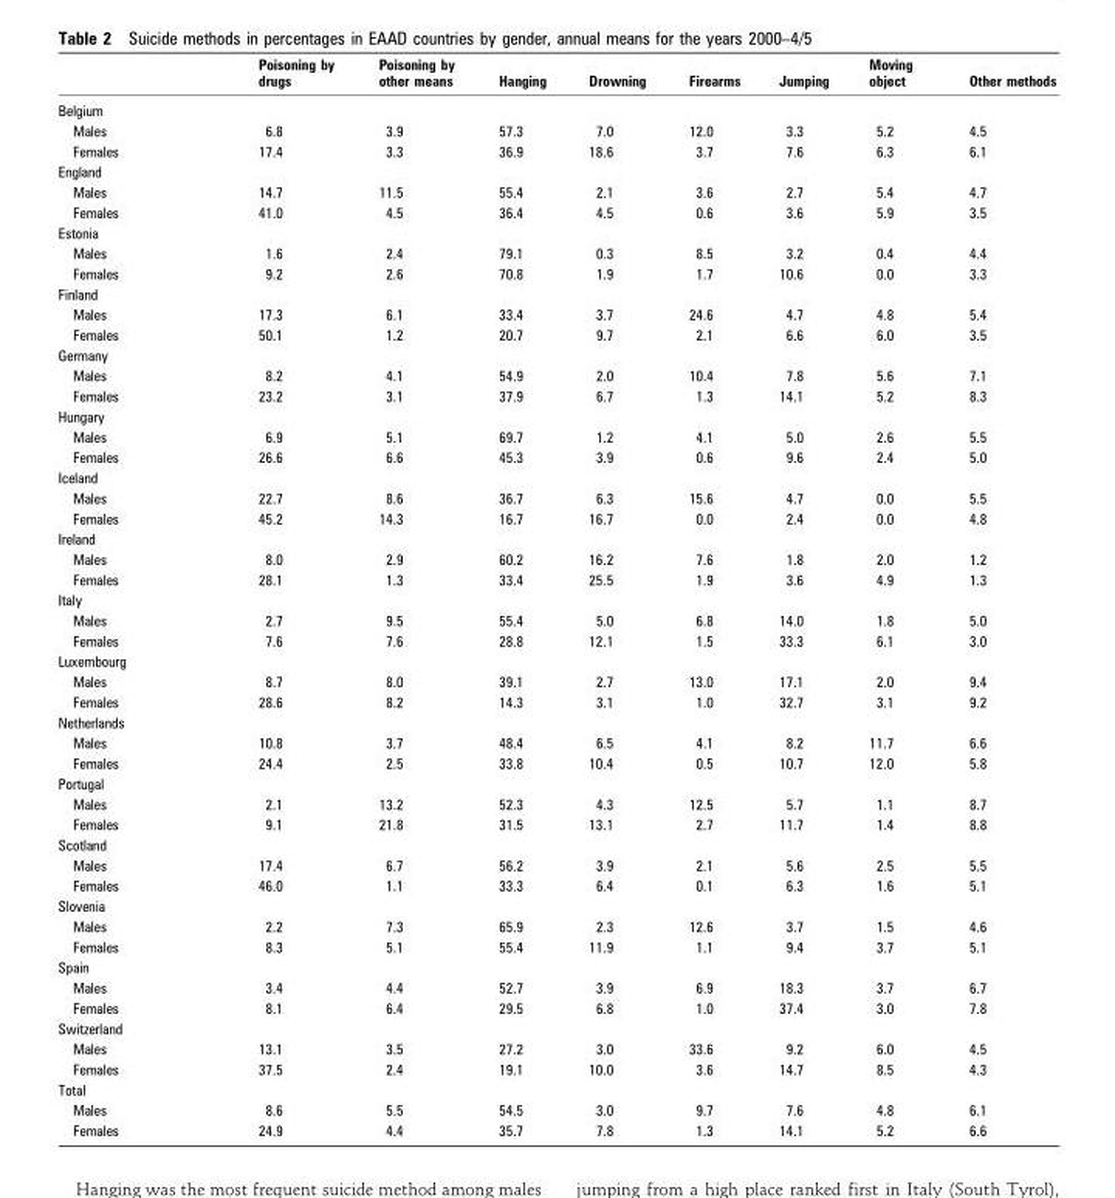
<table><thead><tr><td></td><td>Poisoning by drugs</td><td>Poisoning by other means</td><td>Hanging</td><td>Drowning</td><td>Firearms</td><td>Jumping</td><td>Moving object</td><td>Other methods</td></tr></thead><tbody><tr><td colspan="9">Belgium</td></tr><tr><td>Males</td><td>6.8</td><td>3.9</td><td>57.3</td><td>7.0</td><td>12.0</td><td>3.3</td><td>5.2</td><td>4.5</td></tr><tr><td>Females</td><td>17.4</td><td>3.3</td><td>36.9</td><td>18.6</td><td>3.7</td><td>7.6</td><td>6.3</td><td>6.1</td></tr><tr><td colspan="9">England</td></tr><tr><td>Males</td><td>14.7</td><td>11.5</td><td>55.4</td><td>2.1</td><td>3.6</td><td>2.7</td><td>5.4</td><td>4.7</td></tr><tr><td>Females</td><td>41.0</td><td>4.5</td><td>36.4</td><td>4.5</td><td>0.6</td><td>3.6</td><td>5.9</td><td>3.5</td></tr><tr><td colspan="9">Estonia</td></tr><tr><td>Males</td><td>1.6</td><td>2.4</td><td>79.1</td><td>0.3</td><td>8.5</td><td>3.2</td><td>0.4</td><td>4.4</td></tr><tr><td>Females</td><td>9.2</td><td>2.6</td><td>70.8</td><td>1.9</td><td>1.7</td><td>10.6</td><td>0.0</td><td>3.3</td></tr><tr><td colspan="9">Finland</td></tr><tr><td>Males</td><td>17.3</td><td>6.1</td><td>33.4</td><td>3.7</td><td>24.6</td><td>4.7</td><td>4.8</td><td>5.4</td></tr><tr><td>Females</td><td>50.1</td><td>1.2</td><td>20.7</td><td>9.7</td><td>2.1</td><td>6.6</td><td>6.0</td><td>3.5</td></tr><tr><td colspan="9">Germany</td></tr><tr><td>Males</td><td>8.2</td><td>4.1</td><td>54.9</td><td>2.0</td><td>10.4</td><td>7.8</td><td>5.6</td><td>7.1</td></tr><tr><td>Females</td><td>23.2</td><td>3.1</td><td>37.9</td><td>6.7</td><td>1.3</td><td>14.1</td><td>5.2</td><td>8.3</td></tr><tr><td colspan="9">Hungary</td></tr><tr><td>Males</td><td>6.9</td><td>5.1</td><td>69.7</td><td>1.2</td><td>4.1</td><td>5.0</td><td>2.6</td><td>5.5</td></tr><tr><td>Females</td><td>26.6</td><td>6.6</td><td>45.3</td><td>3.9</td><td>0.6</td><td>9.6</td><td>2.4</td><td>5.0</td></tr><tr><td colspan="9">Iceland</td></tr><tr><td>Males</td><td>22.7</td><td>8.6</td><td>36.7</td><td>6.3</td><td>15.6</td><td>4.7</td><td>0.0</td><td>5.5</td></tr><tr><td>Females</td><td>45.2</td><td>14.3</td><td>16.7</td><td>16.7</td><td>0.0</td><td>2.4</td><td>0.0</td><td>4.8</td></tr><tr><td colspan="9">Ireland</td></tr><tr><td>Males</td><td>8.0</td><td>2.9</td><td>60.2</td><td>16.2</td><td>7.6</td><td>1.8</td><td>2.0</td><td>1.2</td></tr><tr><td>Females</td><td>28.1</td><td>1.3</td><td>33.4</td><td>25.5</td><td>1.9</td><td>3.6</td><td>4.9</td><td>1.3</td></tr><tr><td colspan="9">Italy</td></tr><tr><td>Males</td><td>2.7</td><td>9.5</td><td>55.4</td><td>5.0</td><td>6.8</td><td>14.0</td><td>1.8</td><td>5.0</td></tr><tr><td>Females</td><td>7.6</td><td>7.6</td><td>28.8</td><td>12.1</td><td>1.5</td><td>33.3</td><td>6.1</td><td>3.0</td></tr><tr><td colspan="9">Luxembourg</td></tr><tr><td>Males</td><td>8.7</td><td>8.0</td><td>39.1</td><td>2.7</td><td>13.0</td><td>17.1</td><td>2.0</td><td>9.4</td></tr><tr><td>Females</td><td>28.6</td><td>8.2</td><td>14.3</td><td>3.1</td><td>1.0</td><td>32.7</td><td>3.1</td><td>9.2</td></tr><tr><td colspan="9">Netherlands</td></tr><tr><td>Males</td><td>10.8</td><td>3.7</td><td>48.4</td><td>6.5</td><td>4.1</td><td>8.2</td><td>11.7</td><td>6.6</td></tr><tr><td>Females</td><td>24.4</td><td>2.5</td><td>33.8</td><td>10.4</td><td>0.5</td><td>10.7</td><td>12.0</td><td>5.8</td></tr><tr><td colspan="9">Portugal</td></tr><tr><td>Males</td><td>2.1</td><td>13.2</td><td>52.3</td><td>4.3</td><td>12.5</td><td>5.7</td><td>1.1</td><td>8.7</td></tr><tr><td>Females</td><td>9.1</td><td>21.8</td><td>31.5</td><td>13.1</td><td>2.7</td><td>11.7</td><td>1.4</td><td>8.8</td></tr><tr><td colspan="9">Scotland</td></tr><tr><td>Males</td><td>17.4</td><td>6.7</td><td>56.2</td><td>3.9</td><td>2.1</td><td>5.6</td><td>2.5</td><td>5.5</td></tr><tr><td>Females</td><td>46.0</td><td>1.1</td><td>33.3</td><td>6.4</td><td>0.1</td><td>6.3</td><td>1.6</td><td>5.1</td></tr><tr><td colspan="9">Slovenia</td></tr><tr><td>Males</td><td>2.2</td><td>7.3</td><td>65.9</td><td>2.3</td><td>12.6</td><td>3.7</td><td>1.5</td><td>4.6</td></tr><tr><td>Females</td><td>8.3</td><td>5.1</td><td>55.4</td><td>11.9</td><td>1.1</td><td>9.4</td><td>3.7</td><td>5.1</td></tr><tr><td colspan="9">Spain</td></tr><tr><td>Males</td><td>3.4</td><td>4.4</td><td>52.7</td><td>3.9</td><td>6.9</td><td>18.3</td><td>3.7</td><td>6.7</td></tr><tr><td>Females</td><td>8.1</td><td>6.4</td><td>29.5</td><td>6.8</td><td>1.0</td><td>37.4</td><td>3.0</td><td>7.8</td></tr><tr><td colspan="9">Switzerland</td></tr><tr><td>Males</td><td>13.1</td><td>3.5</td><td>27.2</td><td>3.0</td><td>33.6</td><td>9.2</td><td>6.0</td><td>4.5</td></tr><tr><td>Females</td><td>37.5</td><td>2.4</td><td>19.1</td><td>10.0</td><td>3.6</td><td>14.7</td><td>8.5</td><td>4.3</td></tr><tr><td colspan="9">Total</td></tr><tr><td>Males</td><td>8.6</td><td>5.5</td><td>54.5</td><td>3.0</td><td>9.7</td><td>7.6</td><td>4.8</td><td>6.1</td></tr><tr><td>Females</td><td>24.9</td><td>4.4</td><td>35.7</td><td>7.8</td><td>1.3</td><td>14.1</td><td>5.2</td><td>6.6</td></tr></tbody></table>